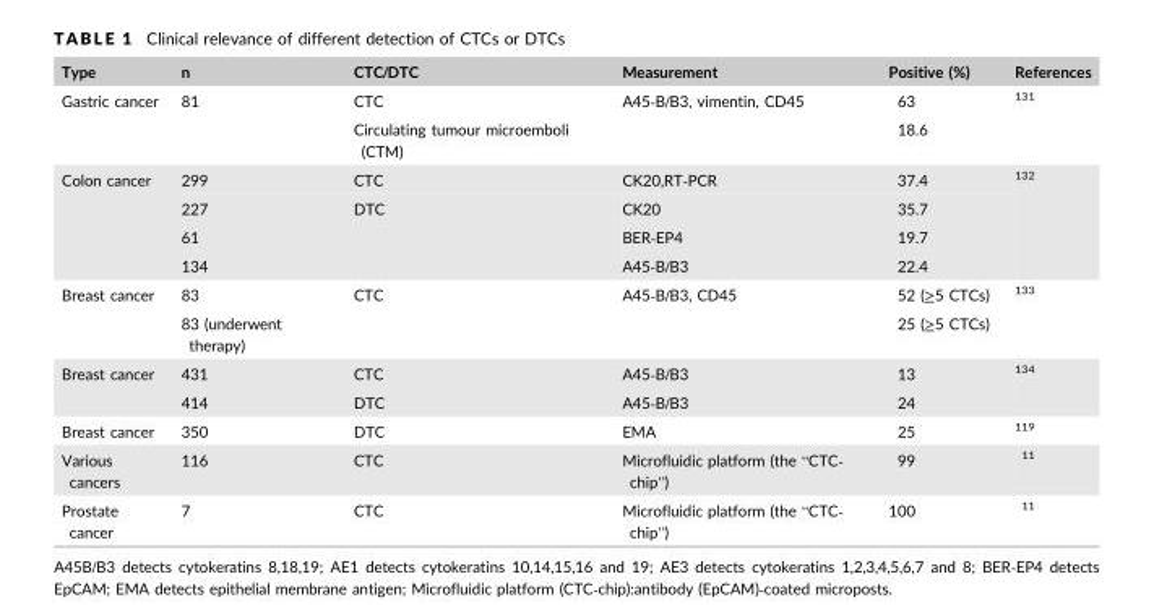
<table><thead><tr><td>Type</td><td>n</td><td>CTC/DTC</td><td>Measurement</td><td>Positive (%)</td><td>References</td></tr></thead><tbody><tr><td rowspan="2">Gastric cancer</td><td rowspan="2">81</td><td>CTC</td><td rowspan="2">A45‐B/B3, vimentin, CD45</td><td>63</td><td rowspan="2">131</td></tr><tr><td>Circulating tumour microemboli (CTM)</td><td>18.6</td></tr><tr><td rowspan="4">Colon cancer</td><td>299</td><td>CTC</td><td>CK20,RT‐PCR</td><td>37.4</td><td rowspan="4">132</td></tr><tr><td>227</td><td rowspan="3">DTC</td><td>CK20</td><td>35.7</td></tr><tr><td>61</td><td>BER‐EP4</td><td>19.7</td></tr><tr><td>134</td><td>A45‐B/B3</td><td>22.4</td></tr><tr><td rowspan="2">Breast cancer</td><td>83</td><td rowspan="2">CTC</td><td rowspan="2">A45‐B/B3, CD45</td><td>52 (≥5 CTCs)</td><td rowspan="2">133</td></tr><tr><td>83 (underwent therapy)</td><td>25 (≥5 CTCs)</td></tr><tr><td rowspan="2">Breast cancer</td><td>431</td><td>CTC</td><td>A45‐B/B3</td><td>13</td><td rowspan="2">134</td></tr><tr><td>414</td><td>DTC</td><td>A45‐B/B3</td><td>24</td></tr><tr><td>Breast cancer</td><td>350</td><td>DTC</td><td>EMA</td><td>25</td><td>119</td></tr><tr><td>Various cancers</td><td>116</td><td>CTC</td><td>Microfluidic platform (the “CTC‐ chip”)</td><td>99</td><td>11</td></tr><tr><td>Prostate cancer</td><td>7</td><td>CTC</td><td>Microfluidic platform (the “CTC‐ chip”)</td><td>100</td><td>11</td></tr></tbody></table>